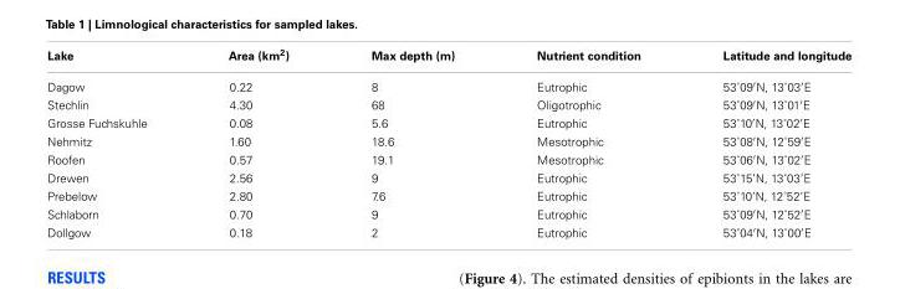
<table><thead><tr><td>Lake</td><td>Area (km<sup>2</sup>)</td><td>Max depth (m)</td><td>Nutrient condition</td><td>Latitude and longitude</td></tr></thead><tbody><tr><td>Dagow</td><td>0.22</td><td>8</td><td>Eutrophic</td><td>53˚09′N, 13˚03′E</td></tr><tr><td>Stechlin</td><td>4.30</td><td>68</td><td>Oligotrophic</td><td>53˚09′N, 13˚01′E</td></tr><tr><td>Grosse Fuchskuhle</td><td>0.08</td><td>5.6</td><td>Eutrophic</td><td>53˚10′N, 13˚02′E</td></tr><tr><td>Nehmitz</td><td>1.60</td><td>18.6</td><td>Mesotrophic</td><td>53˚08′N, 12˚59′E</td></tr><tr><td>Roofen</td><td>0.57</td><td>19.1</td><td>Mesotrophic</td><td>53˚06′N, 13˚02′E</td></tr><tr><td>Drewen</td><td>2.56</td><td>9</td><td>Eutrophic</td><td>53˚15’N, 13˚03’E</td></tr><tr><td>Prebelow</td><td>2.80</td><td>7.6</td><td>Eutrophic</td><td>53˚10’N, 12˚52’E</td></tr><tr><td>Schlaborn</td><td>0.70</td><td>9</td><td>Eutrophic</td><td>53˚09′N, 12˚52′E</td></tr><tr><td>Dollgow</td><td>0.18</td><td>2</td><td>Eutrophic</td><td>53˚04′N, 13˚00′E</td></tr></tbody></table>